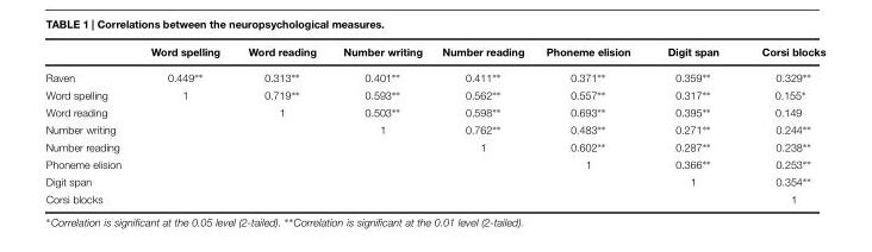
<table><thead><tr><td></td><td>Word spelling</td><td>Word reading</td><td>Number writing</td><td>Number reading</td><td>Phoneme elision</td><td>Digit span</td><td>Corsi blocks</td></tr></thead><tbody><tr><td>Raven</td><td>0.449∗∗</td><td>0.313∗∗</td><td>0.401∗∗</td><td>0.411∗∗</td><td>0.371∗∗</td><td>0.359∗∗</td><td>0.329∗∗</td></tr><tr><td>Word spelling</td><td>1</td><td>0.719∗∗</td><td>0.593∗∗</td><td>0.562∗∗</td><td>0.557∗∗</td><td>0.317∗∗</td><td>0.155∗</td></tr><tr><td>Word reading</td><td></td><td>1</td><td>0.503∗∗</td><td>0.598∗∗</td><td>0.693∗∗</td><td>0.395∗∗</td><td>0.149</td></tr><tr><td>Number writing</td><td></td><td></td><td>1</td><td>0.762∗∗</td><td>0.483∗∗</td><td>0.271∗∗</td><td>0.244∗∗</td></tr><tr><td>Number reading</td><td></td><td></td><td></td><td>1</td><td>0.602∗∗</td><td>0.287∗∗</td><td>0.238∗∗</td></tr><tr><td>Phoneme elision</td><td></td><td></td><td></td><td></td><td>1</td><td>0.366∗∗</td><td>0.253∗∗</td></tr><tr><td>Digit span</td><td></td><td></td><td></td><td></td><td></td><td>1</td><td>0.354∗∗</td></tr><tr><td>Corsi blocks</td><td></td><td></td><td></td><td></td><td></td><td></td><td>1</td></tr></tbody></table>